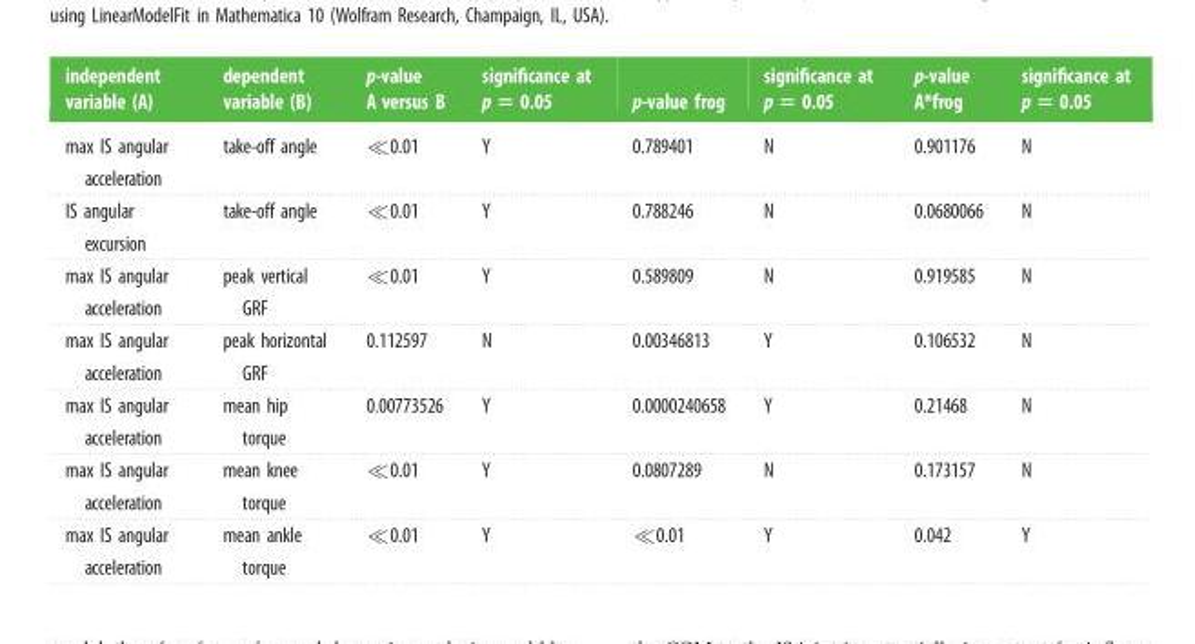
<table><thead><tr><td>independent variable (A)</td><td>dependent variable (B)</td><td>p-value A versus B</td><td>significance at p = 0.05</td><td>p-value frog</td><td>significance at p = 0.05</td><td>p-value A*frog</td><td>significance at p = 0.05</td></tr></thead><tbody><tr><td>max IS angular acceleration</td><td>take-off angle</td><td>≪0.01</td><td>Y</td><td>0.789401</td><td>N</td><td>0.901176</td><td>N</td></tr><tr><td>IS angular excursion</td><td>take-off angle</td><td>≪0.01</td><td>Y</td><td>0.788246</td><td>N</td><td>0.0680066</td><td>N</td></tr><tr><td>max IS angular acceleration</td><td>peak vertical GRF</td><td>≪0.01</td><td>Y</td><td>0.589809</td><td>N</td><td>0.919585</td><td>N</td></tr><tr><td>max IS angular acceleration</td><td>peak horizontal GRF</td><td>0.112597</td><td>N</td><td>0.00346813</td><td>Y</td><td>0.106532</td><td>N</td></tr><tr><td>max IS angular acceleration</td><td>mean hip torque</td><td>0.00773526</td><td>Y</td><td>0.0000240658</td><td>Y</td><td>0.21468</td><td>N</td></tr><tr><td>max IS angular acceleration</td><td>mean knee torque</td><td>≪0.01</td><td>Y</td><td>0.0807289</td><td>N</td><td>0.173157</td><td>N</td></tr><tr><td>max IS angular acceleration</td><td>mean ankle torque</td><td>≪0.01</td><td>Y</td><td>≪0.01</td><td>Y</td><td>0.042</td><td>Y</td></tr></tbody></table>